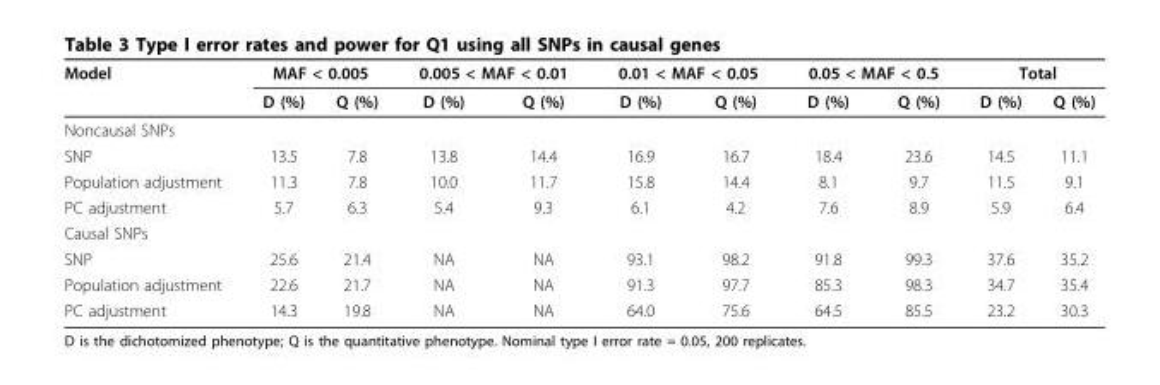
<table><thead><tr><td rowspan="2">Model</td><td colspan="2">MAF &lt; 0.005</td><td colspan="2">0.005 &lt; MAF &lt; 0.01</td><td colspan="2">0.01 &lt; MAF &lt; 0.05</td><td colspan="2">0.05 &lt; MAF &lt; 0.5</td><td colspan="2">Total</td></tr><tr><td>D (%)</td><td>Q (%)</td><td>D (%)</td><td>Q (%)</td><td>D (%)</td><td>Q (%)</td><td>D (%)</td><td>Q (%)</td><td>D (%)</td><td>Q (%)</td></tr></thead><tbody><tr><td colspan="11">Noncausal SNPs</td></tr><tr><td>SNP</td><td>13.5</td><td>7.8</td><td>13.8</td><td>14.4</td><td>16.9</td><td>16.7</td><td>18.4</td><td>23.6</td><td>14.5</td><td>11.1</td></tr><tr><td>Population adjustment</td><td>11.3</td><td>7.8</td><td>10.0</td><td>11.7</td><td>15.8</td><td>14.4</td><td>8.1</td><td>9.7</td><td>11.5</td><td>9.1</td></tr><tr><td>PC adjustment</td><td>5.7</td><td>6.3</td><td>5.4</td><td>9.3</td><td>6.1</td><td>4.2</td><td>7.6</td><td>8.9</td><td>5.9</td><td>6.4</td></tr><tr><td colspan="11">Causal SNPs</td></tr><tr><td>SNP</td><td>25.6</td><td>21.4</td><td>NA</td><td>NA</td><td>93.1</td><td>98.2</td><td>91.8</td><td>99.3</td><td>37.6</td><td>35.2</td></tr><tr><td>Population adjustment</td><td>22.6</td><td>21.7</td><td>NA</td><td>NA</td><td>91.3</td><td>97.7</td><td>85.3</td><td>98.3</td><td>34.7</td><td>35.4</td></tr><tr><td>PC adjustment</td><td>14.3</td><td>19.8</td><td>NA</td><td>NA</td><td>64.0</td><td>75.6</td><td>64.5</td><td>85.5</td><td>23.2</td><td>30.3</td></tr></tbody></table>